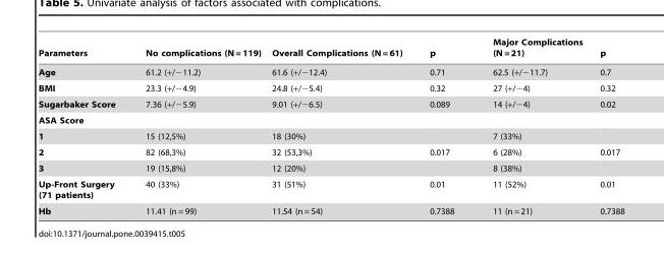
<table><thead><tr><td>Parameters</td><td>No complications (N = 119)</td><td>Overall Complications (N = 61)</td><td>p</td><td>Major Complications (N = 21)</td><td>p</td></tr></thead><tbody><tr><td>Age</td><td>61.2 (+/−11.2)</td><td>61.6 (+/−12.4)</td><td>0.71</td><td>62.5 (+/−11.7)</td><td>0.7</td></tr><tr><td>BMI</td><td>23.3 (+/−4.9)</td><td>24.8 (+/−5.4)</td><td>0.32</td><td>27 (+/−4)</td><td>0.32</td></tr><tr><td>Sugarbaker Score</td><td>7.36 (+/−5.9)</td><td>9.01 (+/−6.5)</td><td>0.089</td><td>14 (+/−4)</td><td>0.02</td></tr><tr><td colspan="6">ASA Score</td></tr><tr><td>1</td><td>15 (12,5%)</td><td>18 (30%)</td><td></td><td>7 (33%)</td><td></td></tr><tr><td>2</td><td>82 (68,3%)</td><td>32 (53,3%)</td><td>0.017</td><td>6 (28%)</td><td>0.017</td></tr><tr><td>3</td><td>19 (15,8%)</td><td>12 (20%)</td><td></td><td>8 (38%)</td><td></td></tr><tr><td>Up-Front Surgery (71 patients)</td><td>40 (33%)</td><td>31 (51%)</td><td>0.01</td><td>11 (52%)</td><td>0.01</td></tr><tr><td>Hb</td><td>11.41 (n = 99)</td><td>11.54 (n = 54)</td><td>0.7388</td><td>11 (n = 21)</td><td>0.7388</td></tr></tbody></table>